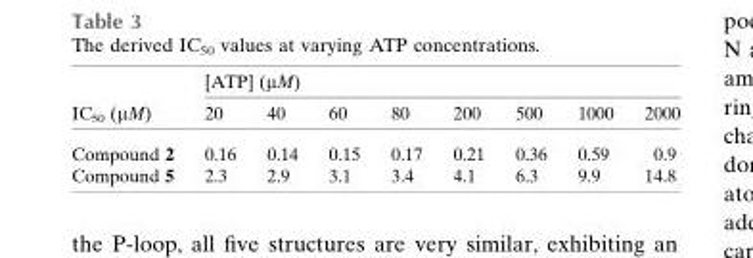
<table><thead><tr><td rowspan="2">IC<sub>50</sub> (µM)</td><td colspan="8">[ATP] (µM)</td></tr><tr><td>20</td><td>40</td><td>60</td><td>80</td><td>200</td><td>500</td><td>1000</td><td>2000</td></tr></thead><tbody><tr><td>Compound 2</td><td>0.16</td><td>0.14</td><td>0.15</td><td>0.17</td><td>0.21</td><td>0.36</td><td>0.59</td><td>0.9</td></tr><tr><td>Compound 5</td><td>2.3</td><td>2.9</td><td>3.1</td><td>3.4</td><td>4.1</td><td>6.3</td><td>9.9</td><td>14.8</td></tr></tbody></table>